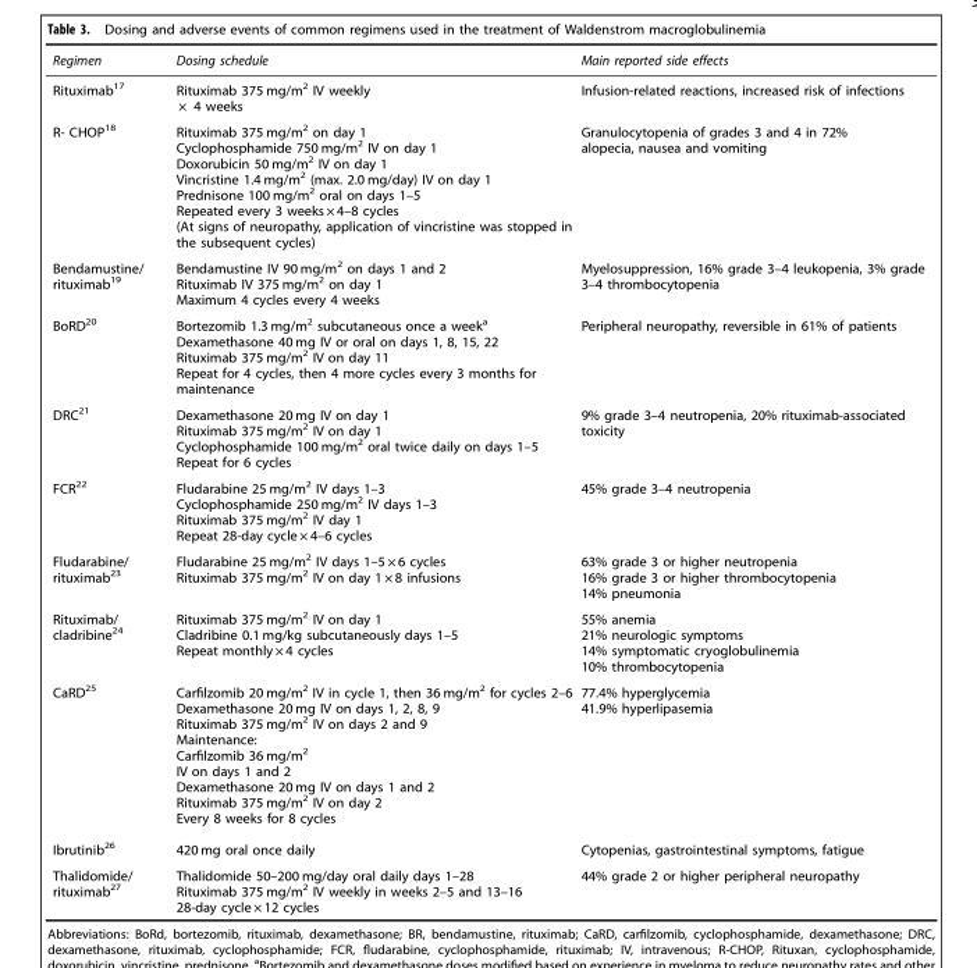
<table><thead><tr><td>Regimen</td><td>Dosing schedule</td><td>Main reported side effects</td></tr></thead><tbody><tr><td>Rituximab<sup>17</sup></td><td>Rituximab 375 mg/m<sup>2</sup> IV weekly × 4 weeks</td><td>Infusion-related reactions, increased risk of infections</td></tr><tr><td>R- CHOP<sup>18</sup></td><td>Rituximab 375 mg/m<sup>2</sup> on day 1 Cyclophosphamide 750 mg/m<sup>2</sup> IV on day 1 Doxorubicin 50 mg/m<sup>2</sup> IV on day 1 Vincristine 1.4 mg/m<sup>2</sup> (max. 2.0 mg/day) IV on day 1 Prednisone 100 mg/m<sup>2</sup> oral on days 1–5 Repeated every 3 weeks × 4–8 cycles (At signs of neuropathy, application of vincristine was stopped in the subsequent cycles)</td><td>Granulocytopenia of grades 3 and 4 in 72% alopecia, nausea and vomiting</td></tr><tr><td>Bendamustine/ rituximab<sup>19</sup></td><td>Bendamustine IV 90 mg/m<sup>2</sup> on days 1 and 2 Rituximab IV 375 mg/m<sup>2</sup> on day 1 Maximum 4 cycles every 4 weeks</td><td>Myelosuppression, 16% grade 3–4 leukopenia, 3% grade 3–4 thrombocytopenia</td></tr><tr><td>BoRD<sup>20</sup></td><td>Bortezomib 1.3 mg/m<sup>2</sup> subcutaneous once a week<sup>a</sup> Dexamethasone 40 mg IV or oral on days 1, 8, 15, 22 Rituximab 375 mg/m<sup>2</sup> IV on day 11 Repeat for 4 cycles, then 4 more cycles every 3 months for maintenance</td><td>Peripheral neuropathy, reversible in 61% of patients</td></tr><tr><td>DRC<sup>21</sup></td><td>Dexamethasone 20 mg IV on day 1 Rituximab 375 mg/m<sup>2</sup> IV on day 1 Cyclophosphamide 100 mg/m<sup>2</sup> oral twice daily on days 1–5 Repeat for 6 cycles</td><td>9% grade 3–4 neutropenia, 20% rituximab-associated toxicity</td></tr><tr><td>FCR<sup>22</sup></td><td>Fludarabine 25 mg/m<sup>2</sup> IV days 1–3 Cyclophosphamide 250 mg/m<sup>2</sup> IV days 1–3 Rituximab 375 mg/m<sup>2</sup> IV day 1 Repeat 28-day cycle × 4–6 cycles</td><td>45% grade 3–4 neutropenia</td></tr><tr><td>Fludarabine/ rituximab<sup>23</sup></td><td>Fludarabine 25 mg/m<sup>2</sup> IV days 1–5 × 6 cycles Rituximab 375 mg/m<sup>2</sup> IV on day 1 × 8 infusions</td><td>63% grade 3 or higher neutropenia 16% grade 3 or higher thrombocytopenia 14% pneumonia</td></tr><tr><td>Rituximab/ cladribine<sup>24</sup></td><td>Rituximab 375 mg/m<sup>2</sup> IV on day 1 Cladribine 0.1 mg/kg subcutaneously days 1–5 Repeat monthly × 4 cycles</td><td>55% anemia 21% neurologic symptoms 14% symptomatic cryoglobulinemia 10% thrombocytopenia</td></tr><tr><td>CaRD<sup>25</sup></td><td>Carfilzomib 20 mg/m<sup>2</sup> IV in cycle 1, then 36 mg/m<sup>2</sup> for cycles 2–6 Dexamethasone 20 mg IV on days 1, 2, 8, 9 Rituximab 375 mg/m<sup>2</sup> IV on days 2 and 9 Maintenance: Carfilzomib 36 mg/m<sup>2</sup> IV on days 1 and 2 Dexamethasone 20 mg IV on days 1 and 2 Rituximab 375 mg/m<sup>2</sup> IV on day 2 Every 8 weeks for 8 cycles</td><td>77.4% hyperglycemia 41.9% hyperlipasemia</td></tr><tr><td>Ibrutinib<sup>26</sup></td><td>420 mg oral once daily</td><td>Cytopenias, gastrointestinal symptoms, fatigue</td></tr><tr><td>Thalidomide/ rituximab<sup>27</sup></td><td>Thalidomide 50–200 mg/day oral daily days 1–28 Rituximab 375 mg/m<sup>2</sup> IV weekly in weeks 2–5 and 13–16 28-day cycle × 12 cycles</td><td>44% grade 2 or higher peripheral neuropathy</td></tr></tbody></table>